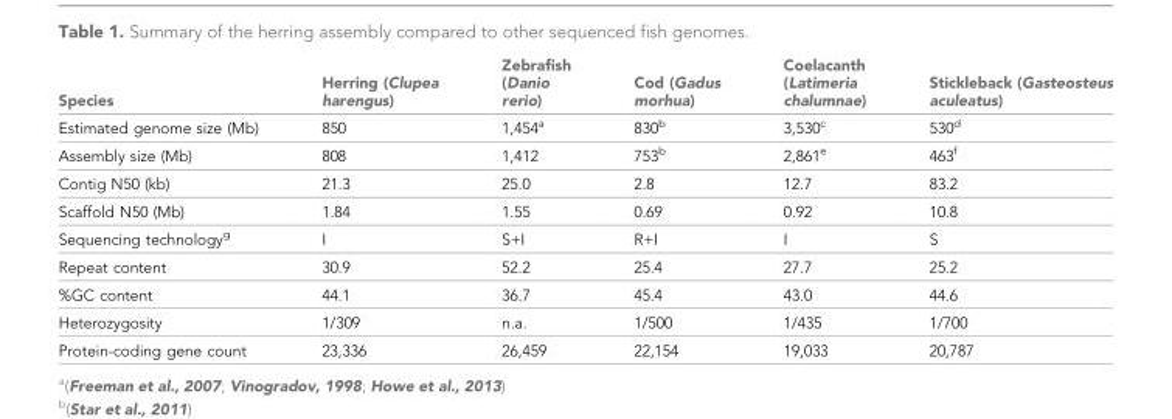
<table><thead><tr><td>Species</td><td>Herring (Clupea harengus)</td><td>Zebrafish (Danio rerio)</td><td>Cod (Gadus morhua)</td><td>Coelacanth (Latimeria chalumnae)</td><td>Stickleback (Gasteosteus aculeatus)</td></tr></thead><tbody><tr><td>Estimated genome size (Mb)</td><td>850</td><td>1,454<sup>a</sup></td><td>830<sup>b</sup></td><td>3,530<sup>c</sup></td><td>530<sup>d</sup></td></tr><tr><td>Assembly size (Mb)</td><td>808</td><td>1,412</td><td>753<sup>b</sup></td><td>2,861<sup>e</sup></td><td>463<sup>f</sup></td></tr><tr><td>Contig N50 (kb)</td><td>21.3</td><td>25.0</td><td>2.8</td><td>12.7</td><td>83.2</td></tr><tr><td>Scaffold N50 (Mb)</td><td>1.84</td><td>1.55</td><td>0.69</td><td>0.92</td><td>10.8</td></tr><tr><td>Sequencing technology<sup>g</sup></td><td>I</td><td>S+I</td><td>R+I</td><td>I</td><td>S</td></tr><tr><td>Repeat content</td><td>30.9</td><td>52.2</td><td>25.4</td><td>27.7</td><td>25.2</td></tr><tr><td>%GC content</td><td>44.1</td><td>36.7</td><td>45.4</td><td>43.0</td><td>44.6</td></tr><tr><td>Heterozygosity</td><td>1/309</td><td>n.a.</td><td>1/500</td><td>1/435</td><td>1/700</td></tr><tr><td>Protein-coding gene count</td><td>23,336</td><td>26,459</td><td>22,154</td><td>19,033</td><td>20,787</td></tr></tbody></table>